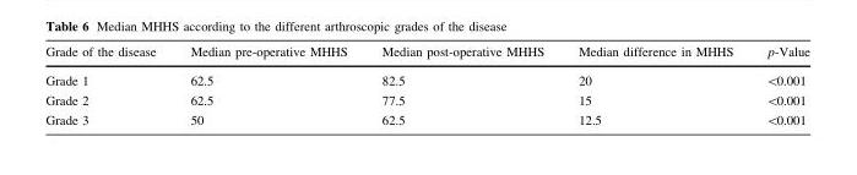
<table><thead><tr><td>Grade of the disease</td><td>Median pre-operative MHHS</td><td>Median post-operative MHHS</td><td>Median difference in MHHS</td><td>p-Value</td></tr></thead><tbody><tr><td>Grade 1</td><td>62.5</td><td>82.5</td><td>20</td><td>&lt;0.001</td></tr><tr><td>Grade 2</td><td>62.5</td><td>77.5</td><td>15</td><td>&lt;0.001</td></tr><tr><td>Grade 3</td><td>50</td><td>62.5</td><td>12.5</td><td>&lt;0.001</td></tr></tbody></table>